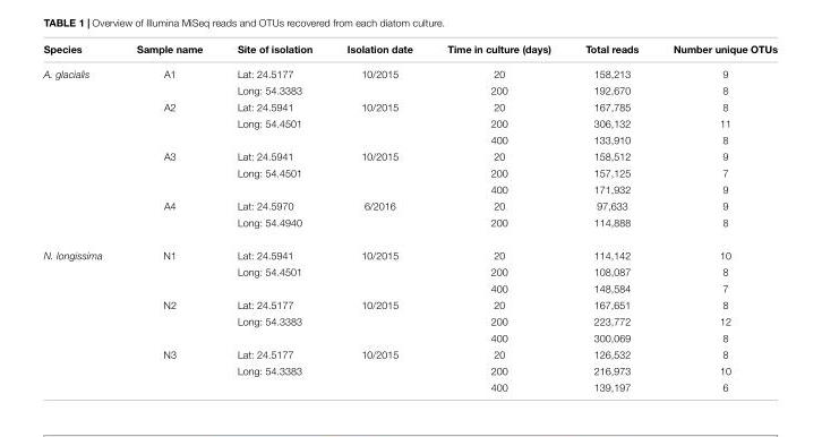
<table><thead><tr><td>Species</td><td>Sample name</td><td>Site of isolation</td><td>Isolation date</td><td>Time in culture (days)</td><td>Total reads</td><td>Number unique OTUs</td></tr></thead><tbody><tr><td rowspan="10">A. glacialis</td><td>A1</td><td>Lat: 24.5177</td><td>10/2015</td><td>20</td><td>158,213</td><td>9</td></tr><tr><td></td><td>Long: 54.3383</td><td></td><td>200</td><td>192,670</td><td>8</td></tr><tr><td>A2</td><td>Lat: 24.5941</td><td>10/2015</td><td>20</td><td>167,785</td><td>8</td></tr><tr><td></td><td>Long: 54.4501</td><td></td><td>200</td><td>306,132</td><td>11</td></tr><tr><td></td><td></td><td></td><td>400</td><td>133,910</td><td>8</td></tr><tr><td>A3</td><td>Lat: 24.5941</td><td>10/2015</td><td>20</td><td>158,512</td><td>9</td></tr><tr><td></td><td>Long: 54.4501</td><td></td><td>200</td><td>157,125</td><td>7</td></tr><tr><td></td><td></td><td></td><td>400</td><td>171,932</td><td>9</td></tr><tr><td>A4</td><td>Lat: 24.5970</td><td>6/2016</td><td>20</td><td>97,633</td><td>9</td></tr><tr><td></td><td>Long: 54.4940</td><td></td><td>200</td><td>114,888</td><td>8</td></tr><tr><td rowspan="9">N. longissima</td><td>N1</td><td>Lat: 24.5941</td><td>10/2015</td><td>20</td><td>114,142</td><td>10</td></tr><tr><td></td><td>Long: 54.4501</td><td></td><td>200</td><td>108,087</td><td>8</td></tr><tr><td></td><td></td><td></td><td>400</td><td>148,584</td><td>7</td></tr><tr><td>N2</td><td>Lat: 24.5177</td><td>10/2015</td><td>20</td><td>167,651</td><td>8</td></tr><tr><td></td><td>Long: 54.3383</td><td></td><td>200</td><td>223,772</td><td>12</td></tr><tr><td></td><td></td><td></td><td>400</td><td>300,069</td><td>8</td></tr><tr><td>N3</td><td>Lat: 24.5177</td><td>10/2015</td><td>20</td><td>126,532</td><td>8</td></tr><tr><td></td><td>Long: 54.3383</td><td></td><td>200</td><td>216,973</td><td>10</td></tr><tr><td></td><td></td><td></td><td>400</td><td>139,197</td><td>6</td></tr></tbody></table>